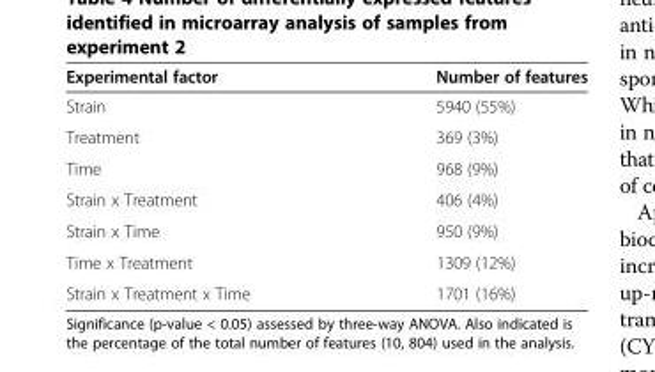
<table><thead><tr><td>Experimental factor</td><td>Number of features</td></tr></thead><tbody><tr><td>Strain</td><td>5940 (55%)</td></tr><tr><td>Treatment</td><td>369 (3%)</td></tr><tr><td>Time</td><td>968 (9%)</td></tr><tr><td>Strain x Treatment</td><td>406 (4%)</td></tr><tr><td>Strain x Time</td><td>950 (9%)</td></tr><tr><td>Time x Treatment</td><td>1309 (12%)</td></tr><tr><td>Strain x Treatment x Time</td><td>1701 (16%)</td></tr></tbody></table>